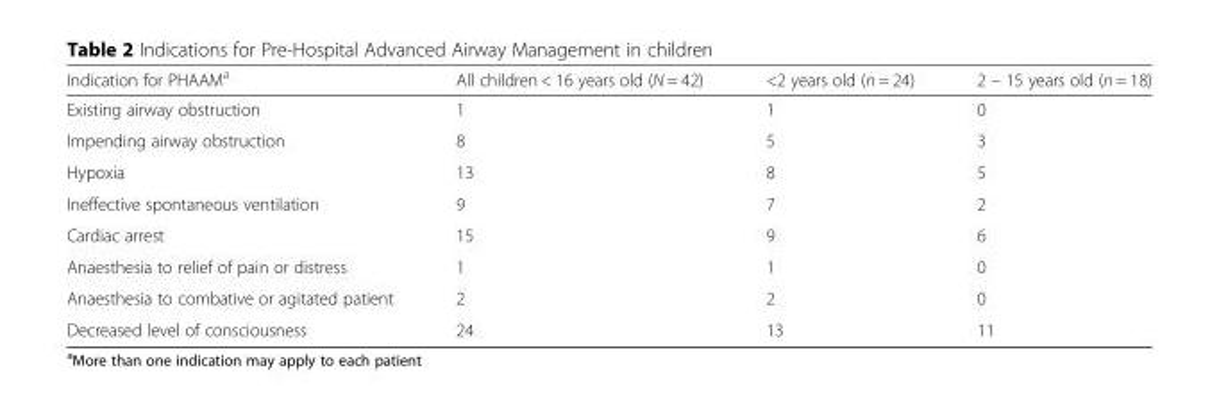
<table><thead><tr><td>Indication for PHAAM<sup>a</sup></td><td>All children &lt; 16 years old (N = 42)</td><td>&lt;2 years old (n = 24)</td><td>2 – 15 years old (n = 18)</td></tr></thead><tbody><tr><td>Existing airway obstruction</td><td>1</td><td>1</td><td>0</td></tr><tr><td>Impending airway obstruction</td><td>8</td><td>5</td><td>3</td></tr><tr><td>Hypoxia</td><td>13</td><td>8</td><td>5</td></tr><tr><td>Ineffective spontaneous ventilation</td><td>9</td><td>7</td><td>2</td></tr><tr><td>Cardiac arrest</td><td>15</td><td>9</td><td>6</td></tr><tr><td>Anaesthesia to relief of pain or distress</td><td>1</td><td>1</td><td>0</td></tr><tr><td>Anaesthesia to combative or agitated patient</td><td>2</td><td>2</td><td>0</td></tr><tr><td>Decreased level of consciousness</td><td>24</td><td>13</td><td>11</td></tr></tbody></table>